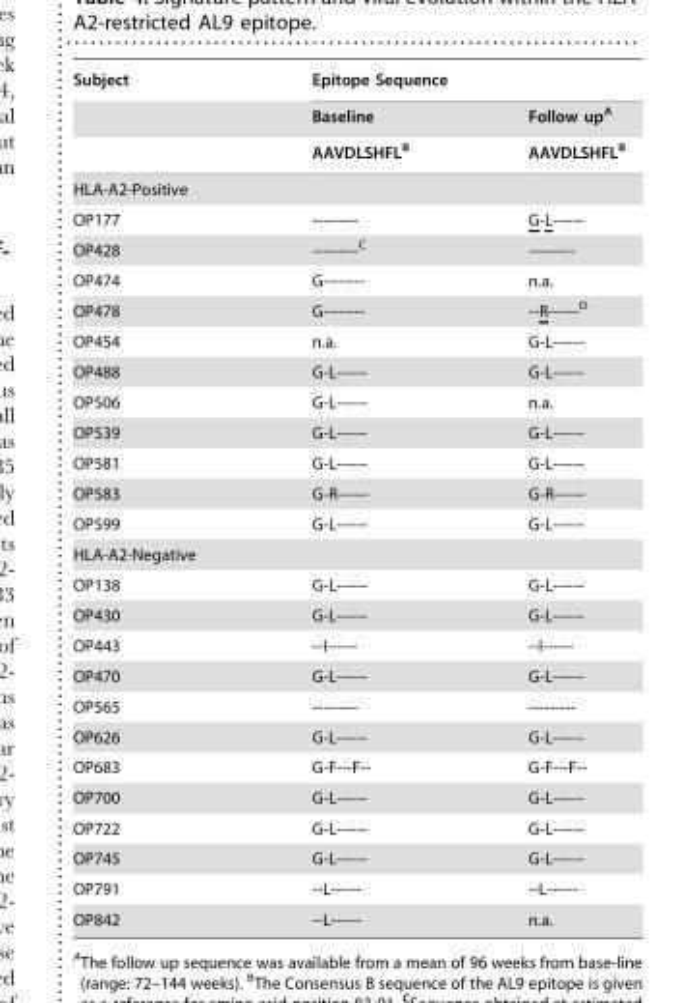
<table><thead><tr><td rowspan="3">Subject</td><td colspan="2">Epitope Sequence</td></tr><tr><td rowspan="2">Baseline AAVDLSHFL<sup>B</sup></td><td rowspan="2">Follow up<sup>A</sup> AAVDLSHFL<sup>B</sup></td></tr><tr></tr></thead><tbody><tr><td colspan="3">HLA-A2-Positive</td></tr><tr><td>OP177</td><td>---------</td><td>G-L------</td></tr><tr><td>OP428</td><td>---------C</td><td>---------</td></tr><tr><td>OP474</td><td>G--------</td><td>n.a.</td></tr><tr><td>OP478</td><td>G--------</td><td>--R------D</td></tr><tr><td>OP454</td><td>n.a.</td><td>G-L------</td></tr><tr><td>OP488</td><td>G-L------</td><td>G-L------</td></tr><tr><td>OP506</td><td>G-L------</td><td>n.a.</td></tr><tr><td>OP539</td><td>G-L------</td><td>G-L------</td></tr><tr><td>OP581</td><td>G-L------</td><td>G-L------</td></tr><tr><td>OP583</td><td>G-R------</td><td>G-R------</td></tr><tr><td>OP599</td><td>G-L------</td><td>G-L------</td></tr><tr><td colspan="3">HLA-A2-Negative</td></tr><tr><td>OP138</td><td>G-L------</td><td>G-L------</td></tr><tr><td>OP430</td><td>G-L------</td><td>G-L------</td></tr><tr><td>OP443</td><td>--I------</td><td>--I------</td></tr><tr><td>OP470</td><td>G-L------</td><td>G-L------</td></tr><tr><td>OP565</td><td>---------</td><td>---------</td></tr><tr><td>OP626</td><td>G-L------</td><td>G-L------</td></tr><tr><td>OP683</td><td>G-F---F--</td><td>G-F---F--</td></tr><tr><td>OP700</td><td>G-L------</td><td>G-L------</td></tr><tr><td>OP722</td><td>G-L------</td><td>G-L------</td></tr><tr><td>OP745</td><td>G-L------</td><td>G-L------</td></tr><tr><td>OP791</td><td>--L------</td><td>--L------</td></tr><tr><td>OP842</td><td>--L------</td><td>n.a.</td></tr></tbody></table>